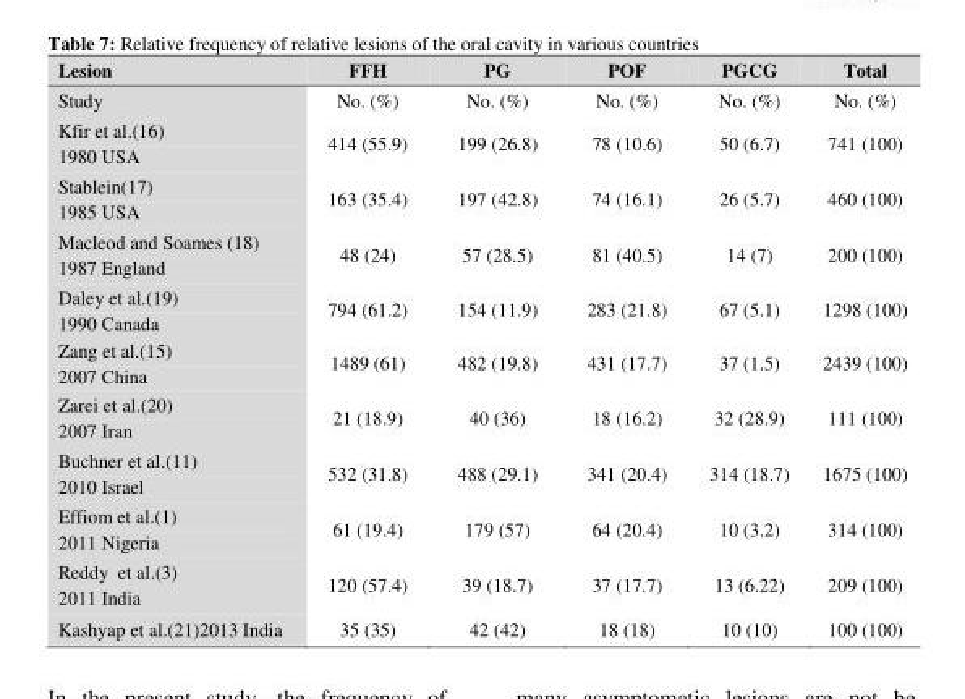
<table><thead><tr><td>Lesion</td><td>FFH</td><td>PG</td><td>POF</td><td>PGCG</td><td>Total</td></tr></thead><tbody><tr><td>Study</td><td>No. (%)</td><td>No. (%)</td><td>No. (%)</td><td>No. (%)</td><td>No. (%)</td></tr><tr><td>Kfir et al.(16) 1980 USA</td><td>414 (55.9)</td><td>199 (26.8)</td><td>78 (10.6)</td><td>50 (6.7)</td><td>741 (100)</td></tr><tr><td>Stablein(17) 1985 USA</td><td>163 (35.4)</td><td>197 (42.8)</td><td>74 (16.1)</td><td>26 (5.7)</td><td>460 (100)</td></tr><tr><td>Macleod and Soames (18) 1987 England</td><td>48 (24)</td><td>57 (28.5)</td><td>81 (40.5)</td><td>14 (7)</td><td>200 (100)</td></tr><tr><td>Daley et al.(19) 1990 Canada</td><td>794 (61.2)</td><td>154 (11.9)</td><td>283 (21.8)</td><td>67 (5.1)</td><td>1298 (100)</td></tr><tr><td>Zang et al.(15) 2007 China</td><td>1489 (61)</td><td>482 (19.8)</td><td>431 (17.7)</td><td>37 (1.5)</td><td>2439 (100)</td></tr><tr><td>Zarei et al.(20) 2007 Iran</td><td>21 (18.9)</td><td>40 (36)</td><td>18 (16.2)</td><td>32 (28.9)</td><td>111 (100)</td></tr><tr><td>Buchner et al.(11) 2010 Israel</td><td>532 (31.8)</td><td>488 (29.1)</td><td>341 (20.4)</td><td>314 (18.7)</td><td>1675 (100)</td></tr><tr><td>Effiom et al.(1) 2011 Nigeria</td><td>61 (19.4)</td><td>179 (57)</td><td>64 (20.4)</td><td>10 (3.2)</td><td>314 (100)</td></tr><tr><td>Reddy et al.(3) 2011 India</td><td>120 (57.4)</td><td>39 (18.7)</td><td>37 (17.7)</td><td>13 (6.22)</td><td>209 (100)</td></tr><tr><td>Kashyap et al.(21)2013 India</td><td>35 (35)</td><td>42 (42)</td><td>18 (18)</td><td>10 (10)</td><td>100 (100)</td></tr></tbody></table>